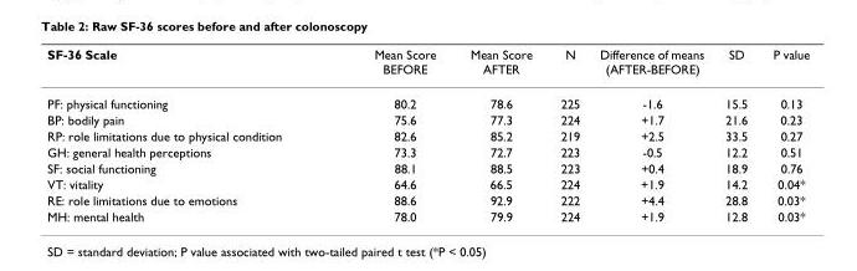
<table><thead><tr><td>SF-36 Scale</td><td>Mean Score BEFORE</td><td>Mean Score AFTER</td><td>N</td><td>Difference of means (AFTER-BEFORE)</td><td>SD</td><td>P value</td></tr></thead><tbody><tr><td>PF: physical functioning</td><td>80.2</td><td>78.6</td><td>225</td><td>-1.6</td><td>15.5</td><td>0.13</td></tr><tr><td>BP: bodily pain</td><td>75.6</td><td>77.3</td><td>224</td><td>+1.7</td><td>21.6</td><td>0.23</td></tr><tr><td>RP: role limitations due to physical condition</td><td>82.6</td><td>85.2</td><td>219</td><td>+2.5</td><td>33.5</td><td>0.27</td></tr><tr><td>GH: general health perceptions</td><td>73.3</td><td>72.7</td><td>223</td><td>-0.5</td><td>12.2</td><td>0.51</td></tr><tr><td>SF: social functioning</td><td>88.1</td><td>88.5</td><td>223</td><td>+0.4</td><td>18.9</td><td>0.76</td></tr><tr><td>VT: vitality</td><td>64.6</td><td>66.5</td><td>224</td><td>+1.9</td><td>14.2</td><td>0.04*</td></tr><tr><td>RE: role limitations due to emotions</td><td>88.6</td><td>92.9</td><td>222</td><td>+4.4</td><td>28.8</td><td>0.03*</td></tr><tr><td>MH: mental health</td><td>78.0</td><td>79.9</td><td>224</td><td>+1.9</td><td>12.8</td><td>0.03*</td></tr></tbody></table>